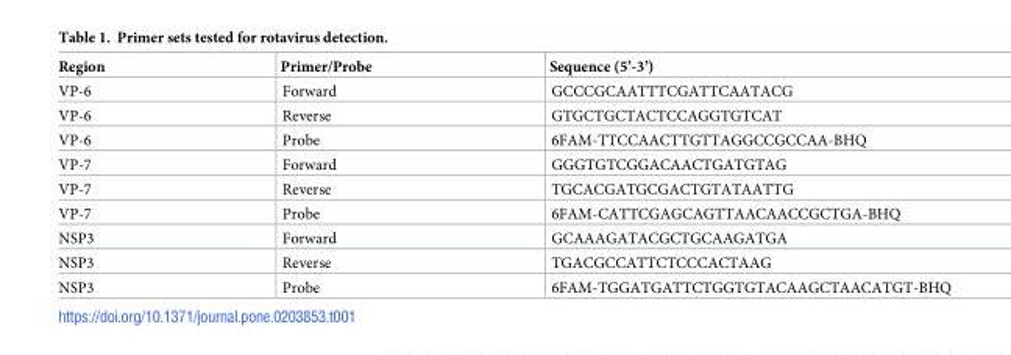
<table><thead><tr><td>Region</td><td>Primer/Probe</td><td>Sequence (5’-3’)</td></tr></thead><tbody><tr><td>VP-6</td><td>Forward</td><td>GCCCGCAATTTCGATTCAATACG</td></tr><tr><td>VP-6</td><td>Reverse</td><td>GTGCTGCTACTCCAGGTGTCAT</td></tr><tr><td>VP-6</td><td>Probe</td><td>6FAM-TTCCAACTTGTTAGGCCGCCAA-BHQ</td></tr><tr><td>VP-7</td><td>Forward</td><td>GGGTGTCGGACAACTGATGTAG</td></tr><tr><td>VP-7</td><td>Reverse</td><td>TGCACGATGCGACTGTATAATTG</td></tr><tr><td>VP-7</td><td>Probe</td><td>6FAM-CATTCGAGCAGTTAACAACCGCTGA-BHQ</td></tr><tr><td>NSP3</td><td>Forward</td><td>GCAAAGATACGCTGCAAGATGA</td></tr><tr><td>NSP3</td><td>Reverse</td><td>TGACGCCATTCTCCCACTAAG</td></tr><tr><td>NSP3</td><td>Probe</td><td>6FAM-TGGATGATTCTGGTGTACAAGCTAACATGT-BHQ</td></tr></tbody></table>